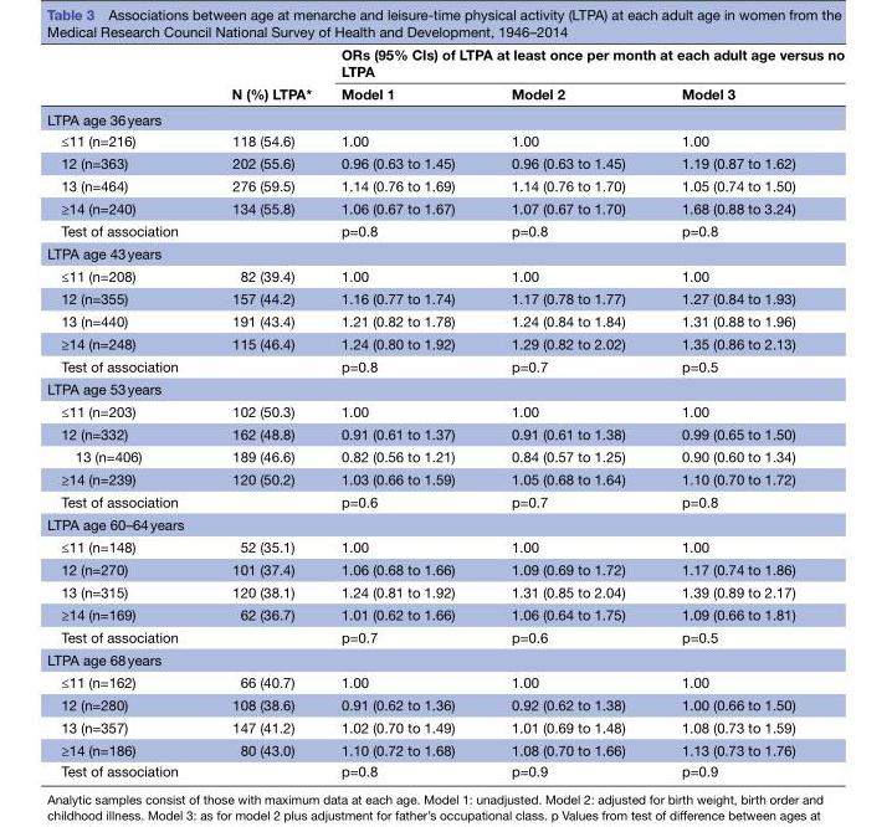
<table><thead><tr><td rowspan="2"></td><td rowspan="2">N (%) LTPA*</td><td colspan="3">ORs (95% CIs) of LTPA at least once per month at each adult age versus no LTPA</td></tr><tr><td>Model 1</td><td>Model 2</td><td>Model 3</td></tr></thead><tbody><tr><td colspan="5">LTPA age 36 years</td></tr><tr><td>≤11 (n=216)</td><td>118 (54.6)</td><td>1.00</td><td>1.00</td><td>1.00</td></tr><tr><td>12 (n=363)</td><td>202 (55.6)</td><td>0.96 (0.63 to 1.45)</td><td>0.96 (0.63 to 1.45)</td><td>1.19 (0.87 to 1.62)</td></tr><tr><td>13 (n=464)</td><td>276 (59.5)</td><td>1.14 (0.76 to 1.69)</td><td>1.14 (0.76 to 1.70)</td><td>1.05 (0.74 to 1.50)</td></tr><tr><td>≥14 (n=240)</td><td>134 (55.8)</td><td>1.06 (0.67 to 1.67)</td><td>1.07 (0.67 to 1.70)</td><td>1.68 (0.88 to 3.24)</td></tr><tr><td>Test of association</td><td></td><td>p=0.8</td><td>p=0.8</td><td>p=0.8</td></tr><tr><td colspan="5">LTPA age 43 years</td></tr><tr><td>≤11 (n=208)</td><td>82 (39.4)</td><td>1.00</td><td>1.00</td><td>1.00</td></tr><tr><td>12 (n=355)</td><td>157 (44.2)</td><td>1.16 (0.77 to 1.74)</td><td>1.17 (0.78 to 1.77)</td><td>1.27 (0.84 to 1.93)</td></tr><tr><td>13 (n=440)</td><td>191 (43.4)</td><td>1.21 (0.82 to 1.78)</td><td>1.24 (0.84 to 1.84)</td><td>1.31 (0.88 to 1.96)</td></tr><tr><td>≥14 (n=248)</td><td>115 (46.4)</td><td>1.24 (0.80 to 1.92)</td><td>1.29 (0.82 to 2.02)</td><td>1.35 (0.86 to 2.13)</td></tr><tr><td>Test of association</td><td></td><td>p=0.8</td><td>p=0.7</td><td>p=0.5</td></tr><tr><td colspan="5">LTPA age 53 years</td></tr><tr><td>≤11 (n=203)</td><td>102 (50.3)</td><td>1.00</td><td>1.00</td><td>1.00</td></tr><tr><td>12 (n=332)</td><td>162 (48.8)</td><td>0.91 (0.61 to 1.37)</td><td>0.91 (0.61 to 1.38)</td><td>0.99 (0.65 to 1.50)</td></tr><tr><td>13 (n=406)</td><td>189 (46.6)</td><td>0.82 (0.56 to 1.21)</td><td>0.84 (0.57 to 1.25)</td><td>0.90 (0.60 to 1.34)</td></tr><tr><td>≥14 (n=239)</td><td>120 (50.2)</td><td>1.03 (0.66 to 1.59)</td><td>1.05 (0.68 to 1.64)</td><td>1.10 (0.70 to 1.72)</td></tr><tr><td>Test of association</td><td></td><td>p=0.6</td><td>p=0.7</td><td>p=0.8</td></tr><tr><td colspan="5">LTPA age 60–64 years</td></tr><tr><td>≤11 (n=148)</td><td>52 (35.1)</td><td>1.00</td><td>1.00</td><td>1.00</td></tr><tr><td>12 (n=270)</td><td>101 (37.4)</td><td>1.06 (0.68 to 1.66)</td><td>1.09 (0.69 to 1.72)</td><td>1.17 (0.74 to 1.86)</td></tr><tr><td>13 (n=315)</td><td>120 (38.1)</td><td>1.24 (0.81 to 1.92)</td><td>1.31 (0.85 to 2.04)</td><td>1.39 (0.89 to 2.17)</td></tr><tr><td>≥14 (n=169)</td><td>62 (36.7)</td><td>1.01 (0.62 to 1.66)</td><td>1.06 (0.64 to 1.75)</td><td>1.09 (0.66 to 1.81)</td></tr><tr><td>Test of association</td><td></td><td>p=0.7</td><td>p=0.6</td><td>p=0.5</td></tr><tr><td colspan="5">LTPA age 68 years</td></tr><tr><td>≤11 (n=162)</td><td>66 (40.7)</td><td>1.00</td><td>1.00</td><td>1.00</td></tr><tr><td>12 (n=280)</td><td>108 (38.6)</td><td>0.91 (0.62 to 1.36)</td><td>0.92 (0.62 to 1.38)</td><td>1.00 (0.66 to 1.50)</td></tr><tr><td>13 (n=357)</td><td>147 (41.2)</td><td>1.02 (0.70 to 1.49)</td><td>1.01 (0.69 to 1.48)</td><td>1.08 (0.73 to 1.59)</td></tr><tr><td>≥14 (n=186)</td><td>80 (43.0)</td><td>1.10 (0.72 to 1.68)</td><td>1.08 (0.70 to 1.66)</td><td>1.13 (0.73 to 1.76)</td></tr><tr><td>Test of association</td><td></td><td>p=0.8</td><td>p=0.9</td><td>p=0.9</td></tr></tbody></table>